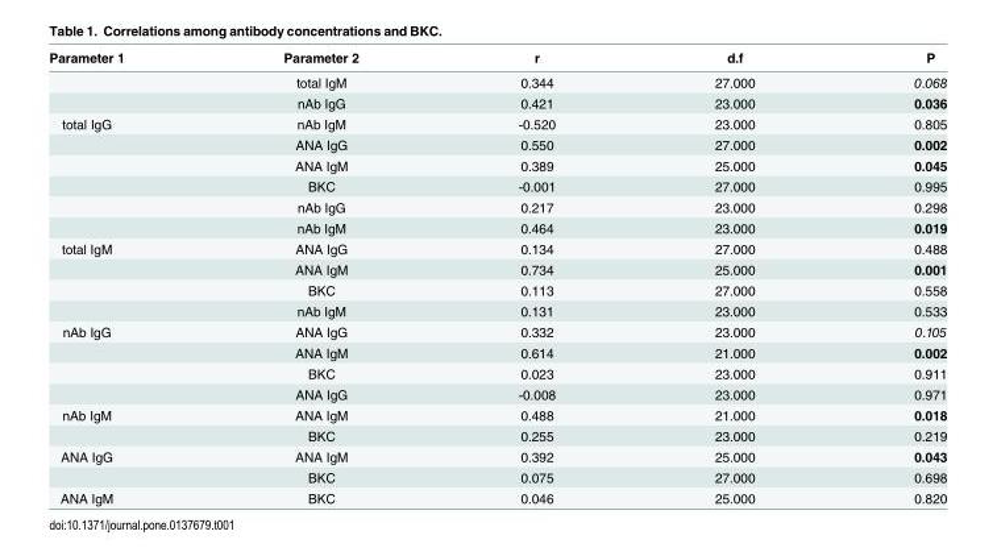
<table><thead><tr><td>Parameter 1</td><td>Parameter 2</td><td>r</td><td>d.f</td><td>P</td></tr></thead><tbody><tr><td></td><td>total IgM</td><td>0.344</td><td>27.000</td><td>0.068</td></tr><tr><td></td><td>nAb IgG</td><td>0.421</td><td>23.000</td><td>0.036</td></tr><tr><td rowspan="6">total IgG</td><td>nAb IgM</td><td>-0.520</td><td>23.000</td><td>0.805</td></tr><tr><td>ANA IgG</td><td>0.550</td><td>27.000</td><td>0.002</td></tr><tr><td>ANA IgM</td><td>0.389</td><td>25.000</td><td>0.045</td></tr><tr><td>BKC</td><td>-0.001</td><td>27.000</td><td>0.995</td></tr><tr><td>nAb IgG</td><td>0.217</td><td>23.000</td><td>0.298</td></tr><tr><td>nAb IgM</td><td>0.464</td><td>23.000</td><td>0.019</td></tr><tr><td rowspan="4">total IgM</td><td>ANA IgG</td><td>0.134</td><td>27.000</td><td>0.488</td></tr><tr><td>ANA IgM</td><td>0.734</td><td>25.000</td><td>0.001</td></tr><tr><td>BKC</td><td>0.113</td><td>27.000</td><td>0.558</td></tr><tr><td>nAb IgM</td><td>0.131</td><td>23.000</td><td>0.533</td></tr><tr><td rowspan="4">nAb IgG</td><td>ANA IgG</td><td>0.332</td><td>23.000</td><td>0.105</td></tr><tr><td>ANA IgM</td><td>0.614</td><td>21.000</td><td>0.002</td></tr><tr><td>BKC</td><td>0.023</td><td>23.000</td><td>0.911</td></tr><tr><td>ANA IgG</td><td>-0.008</td><td>23.000</td><td>0.971</td></tr><tr><td rowspan="2">nAb IgM</td><td>ANA IgM</td><td>0.488</td><td>21.000</td><td>0.018</td></tr><tr><td>BKC</td><td>0.255</td><td>23.000</td><td>0.219</td></tr><tr><td rowspan="2">ANA IgG</td><td>ANA IgM</td><td>0.392</td><td>25.000</td><td>0.043</td></tr><tr><td>BKC</td><td>0.075</td><td>27.000</td><td>0.698</td></tr><tr><td>ANA IgM</td><td>BKC</td><td>0.046</td><td>25.000</td><td>0.820</td></tr></tbody></table>